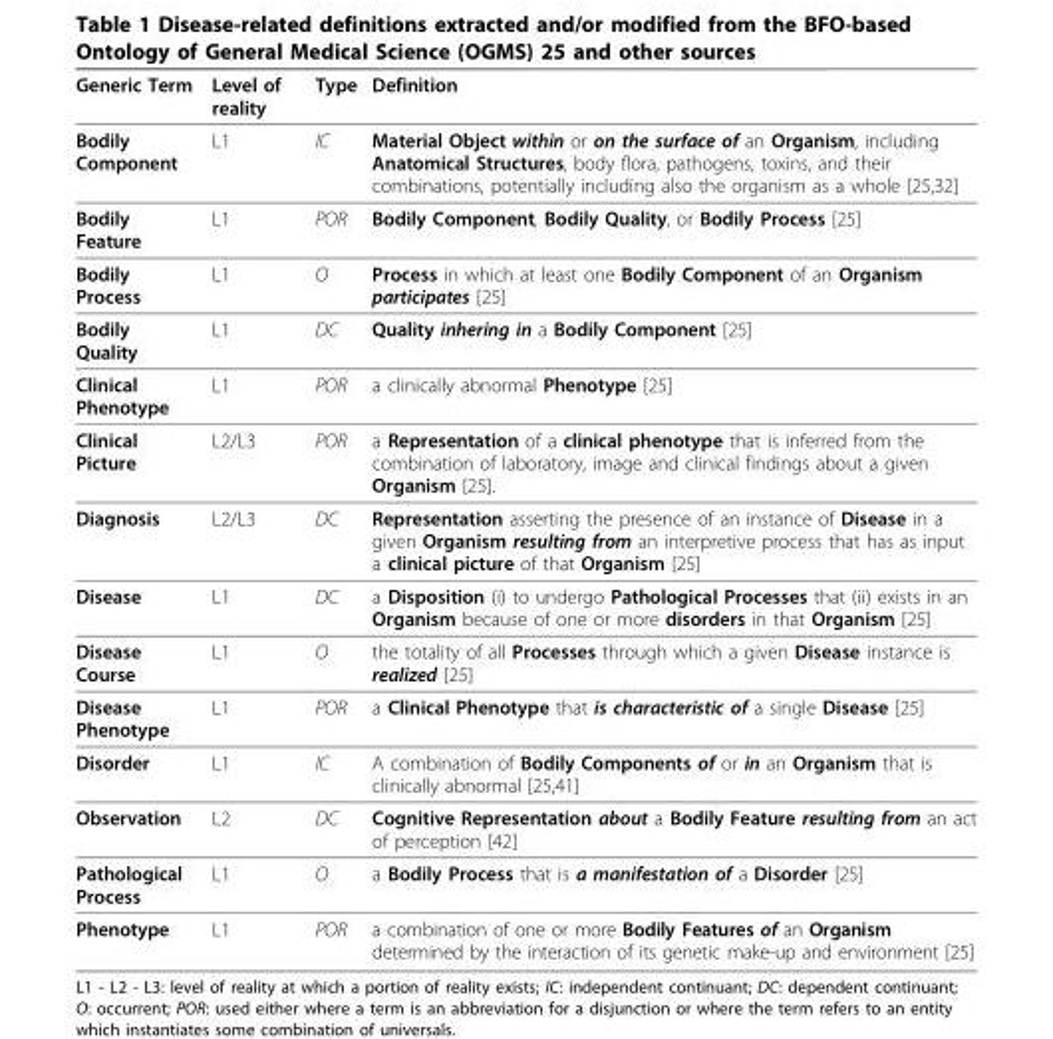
<table><thead><tr><td>Generic Term</td><td>Level of reality</td><td>Type</td><td>Definition</td></tr></thead><tbody><tr><td>Bodily Component</td><td>L1</td><td>IC</td><td>Material Object within or on the surface of an Organism, including Anatomical Structures, body flora, pathogens, toxins, and their combinations, potentially including also the organism as a whole [25,32]</td></tr><tr><td>Bodily Feature</td><td>L1</td><td>POR</td><td>Bodily Component, Bodily Quality, or Bodily Process [25]</td></tr><tr><td>Bodily Process</td><td>L1</td><td>O</td><td>Process in which at least one Bodily Component of an Organism participates [25]</td></tr><tr><td>Bodily Quality</td><td>L1</td><td>DC</td><td>Quality inhering in a Bodily Component [25]</td></tr><tr><td>Clinical Phenotype</td><td>L1</td><td>POR</td><td>a clinically abnormal Phenotype [25]</td></tr><tr><td>Clinical Picture</td><td>L2/L3</td><td>POR</td><td>a Representation of a clinical phenotype that is inferred from the combination of laboratory, image and clinical findings about a given Organism [25].</td></tr><tr><td>Diagnosis</td><td>L2/L3</td><td>DC</td><td>Representation asserting the presence of an instance of Disease in a given Organism resulting from an interpretive process that has as input a clinical picture of that Organism [25]</td></tr><tr><td>Disease</td><td>L1</td><td>DC</td><td>a Disposition (i) to undergo Pathological Processes that (ii) exists in an Organism because of one or more disorders in that Organism [25]</td></tr><tr><td>Disease Course</td><td>L1</td><td>O</td><td>the totality of all Processes through which a given Disease instance is realized [25]</td></tr><tr><td>Disease Phenotype</td><td>L1</td><td>POR</td><td>a Clinical Phenotype that is characteristic of a single Disease [25]</td></tr><tr><td>Disorder</td><td>L1</td><td>IC</td><td>A combination of Bodily Components of or in an Organism that is clinically abnormal [25,41]</td></tr><tr><td>Observation</td><td>L2</td><td>DC</td><td>Cognitive Representation about a Bodily Feature resulting from an act of perception [42]</td></tr><tr><td>Pathological Process</td><td>L1</td><td>O</td><td>a Bodily Process that is a manifestation of a Disorder [25]</td></tr><tr><td>Phenotype</td><td>L1</td><td>POR</td><td>a combination of one or more Bodily Features of an Organism determined by the interaction of its genetic make-up and environment [25]</td></tr></tbody></table>